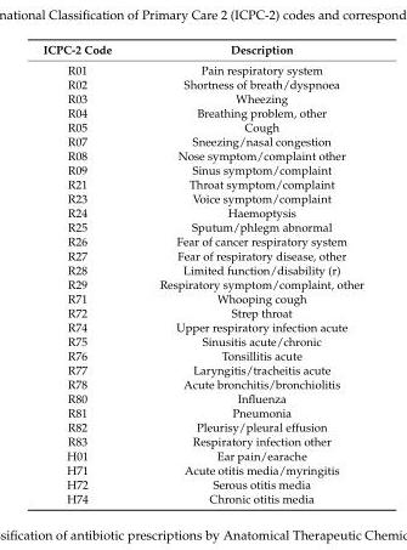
<table><thead><tr><td>ICPC-2 Code</td><td>Description</td></tr></thead><tbody><tr><td>R01</td><td>Pain respiratory system</td></tr><tr><td>R02</td><td>Shortness of breath/dyspnoea</td></tr><tr><td>R03</td><td>Wheezing</td></tr><tr><td>R04</td><td>Breathing problem, other</td></tr><tr><td>R05</td><td>Cough</td></tr><tr><td>R07</td><td>Sneezing/nasal congestion</td></tr><tr><td>R08</td><td>Nose symptom/complaint other</td></tr><tr><td>R09</td><td>Sinus symptom/complaint</td></tr><tr><td>R21</td><td>Throat symptom/complaint</td></tr><tr><td>R23</td><td>Voice symptom/complaint</td></tr><tr><td>R24</td><td>Haemoptysis</td></tr><tr><td>R25</td><td>Sputum/phlegm abnormal</td></tr><tr><td>R26</td><td>Fear of cancer respiratory system</td></tr><tr><td>R27</td><td>Fear of respiratory disease, other</td></tr><tr><td>R28</td><td>Limited function/disability (r)</td></tr><tr><td>R29</td><td>Respiratory symptom/complaint, other</td></tr><tr><td>R71</td><td>Whooping cough</td></tr><tr><td>R72</td><td>Strep throat</td></tr><tr><td>R74</td><td>Upper respiratory infection acute</td></tr><tr><td>R75</td><td>Sinusitis acute/chronic</td></tr><tr><td>R76</td><td>Tonsillitis acute</td></tr><tr><td>R77</td><td>Laryngitis/tracheitis acute</td></tr><tr><td>R78</td><td>Acute bronchitis/bronchiolitis</td></tr><tr><td>R80</td><td>Influenza</td></tr><tr><td>R81</td><td>Pneumonia</td></tr><tr><td>R82</td><td>Pleurisy/pleural effusion</td></tr><tr><td>R83</td><td>Respiratory infection other</td></tr><tr><td>H01</td><td>Ear pain/earache</td></tr><tr><td>H71</td><td>Acute otitis media/myringitis</td></tr><tr><td>H72</td><td>Serous otitis media</td></tr><tr><td>H74</td><td>Chronic otitis media</td></tr></tbody></table>